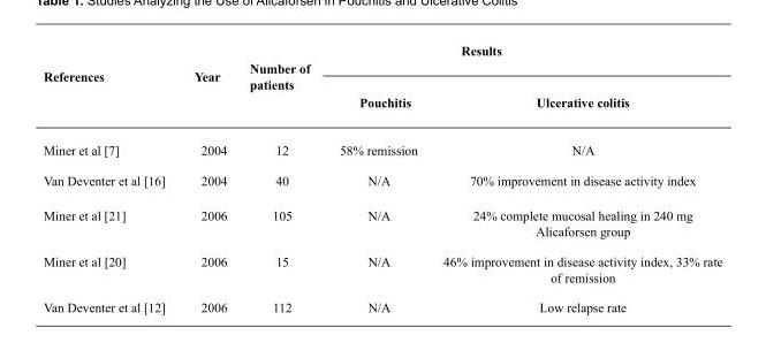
<table><thead><tr><td rowspan="2">References</td><td rowspan="2">Year</td><td rowspan="2">Number of patients</td><td colspan="2">Results</td></tr><tr><td>Pouchitis</td><td>Ulcerative colitis</td></tr></thead><tbody><tr><td>Miner et al [7]</td><td>2004</td><td>12</td><td>58% remission</td><td>N/A</td></tr><tr><td>Van Deventer et al [16]</td><td>2004</td><td>40</td><td>N/A</td><td>70% improvement in disease activity index</td></tr><tr><td>Miner et al [21]</td><td>2006</td><td>105</td><td>N/A</td><td>24% complete mucosal healing in 240 mg Alicaforsen group</td></tr><tr><td>Miner et al [20]</td><td>2006</td><td>15</td><td>N/A</td><td>46% improvement in disease activity index, 33% rate of remission</td></tr><tr><td>Van Deventer et al [12]</td><td>2006</td><td>112</td><td>N/A</td><td>Low relapse rate</td></tr></tbody></table>